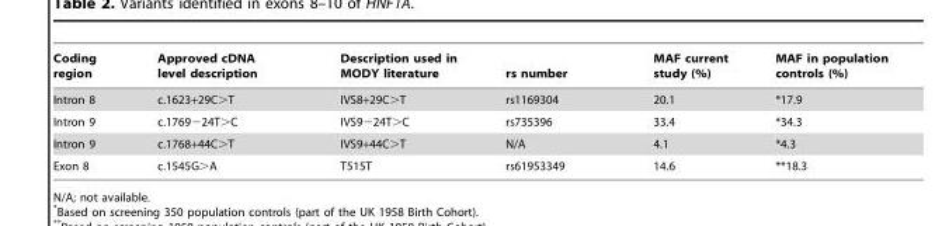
<table><thead><tr><td>Coding region</td><td>Approved cDNA level description</td><td>Description used in MODY literature</td><td>rs number</td><td>MAF current study (%)</td><td>MAF in population controls (%)</td></tr></thead><tbody><tr><td>Intron 8</td><td>c.1623+29C&gt;T</td><td>IVS8+29C&gt;T</td><td>rs1169304</td><td>20.1</td><td>*17.9</td></tr><tr><td>Intron 9</td><td>c.1769−24T&gt;C</td><td>IVS9−24T&gt;C</td><td>rs735396</td><td>33.4</td><td>*34.3</td></tr><tr><td>Intron 9</td><td>c.1768+44C&gt;T</td><td>IVS9+44C&gt;T</td><td>N/A</td><td>4.1</td><td>*4.3</td></tr><tr><td>Exon 8</td><td>c.1545G&gt;A</td><td>T515T</td><td>rs61953349</td><td>14.6</td><td>**18.3</td></tr></tbody></table>